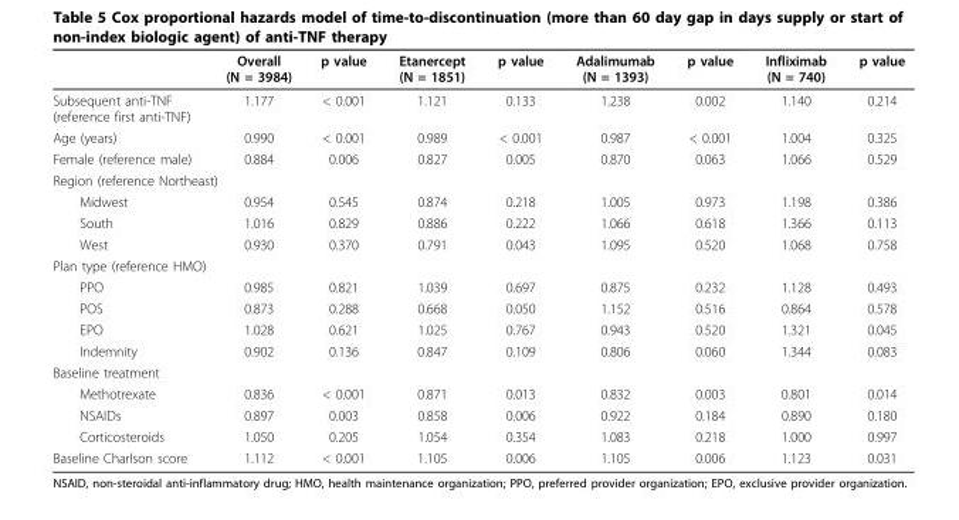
<table><thead><tr><td></td><td>Overall (N = 3984)</td><td>p value</td><td>Etanercept (N = 1851)</td><td>p value</td><td>Adalimumab (N = 1393)</td><td>p value</td><td>Infliximab (N = 740)</td><td>p value</td></tr></thead><tbody><tr><td>Subsequent anti-TNF (reference first anti-TNF)</td><td>1.177</td><td>&lt; 0.001</td><td>1.121</td><td>0.133</td><td>1.238</td><td>0.002</td><td>1.140</td><td>0.214</td></tr><tr><td>Age (years)</td><td>0.990</td><td>&lt; 0.001</td><td>0.989</td><td>&lt; 0.001</td><td>0.987</td><td>&lt; 0.001</td><td>1.004</td><td>0.325</td></tr><tr><td>Female (reference male)</td><td>0.884</td><td>0.006</td><td>0.827</td><td>0.005</td><td>0.870</td><td>0.063</td><td>1.066</td><td>0.529</td></tr><tr><td colspan="9">Region (reference Northeast)</td></tr><tr><td>Midwest</td><td>0.954</td><td>0.545</td><td>0.874</td><td>0.218</td><td>1.005</td><td>0.973</td><td>1.198</td><td>0.386</td></tr><tr><td>South</td><td>1.016</td><td>0.829</td><td>0.886</td><td>0.222</td><td>1.066</td><td>0.618</td><td>1.366</td><td>0.113</td></tr><tr><td>West</td><td>0.930</td><td>0.370</td><td>0.791</td><td>0.043</td><td>1.095</td><td>0.520</td><td>1.068</td><td>0.758</td></tr><tr><td colspan="9">Plan type (reference HMO)</td></tr><tr><td>PPO</td><td>0.985</td><td>0.821</td><td>1.039</td><td>0.697</td><td>0.875</td><td>0.232</td><td>1.128</td><td>0.493</td></tr><tr><td>POS</td><td>0.873</td><td>0.288</td><td>0.668</td><td>0.050</td><td>1.152</td><td>0.516</td><td>0.864</td><td>0.578</td></tr><tr><td>EPO</td><td>1.028</td><td>0.621</td><td>1.025</td><td>0.767</td><td>0.943</td><td>0.520</td><td>1.321</td><td>0.045</td></tr><tr><td>Indemnity</td><td>0.902</td><td>0.136</td><td>0.847</td><td>0.109</td><td>0.806</td><td>0.060</td><td>1.344</td><td>0.083</td></tr><tr><td colspan="9">Baseline treatment</td></tr><tr><td>Methotrexate</td><td>0.836</td><td>&lt; 0.001</td><td>0.871</td><td>0.013</td><td>0.832</td><td>0.003</td><td>0.801</td><td>0.014</td></tr><tr><td>NSAIDs</td><td>0.897</td><td>0.003</td><td>0.858</td><td>0.006</td><td>0.922</td><td>0.184</td><td>0.890</td><td>0.180</td></tr><tr><td>Corticosteroids</td><td>1.050</td><td>0.205</td><td>1.054</td><td>0.354</td><td>1.083</td><td>0.218</td><td>1.000</td><td>0.997</td></tr><tr><td>Baseline Charlson score</td><td>1.112</td><td>&lt; 0.001</td><td>1.105</td><td>0.006</td><td>1.105</td><td>0.006</td><td>1.123</td><td>0.031</td></tr></tbody></table>